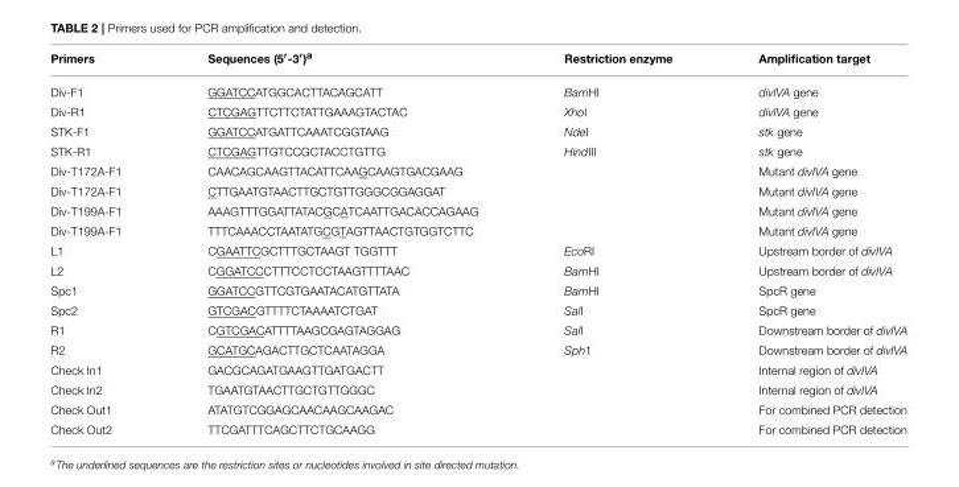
<table><thead><tr><td>Primers</td><td>Sequences (5′-3′)<sup>a</sup></td><td>Restriction enzyme</td><td>Amplification target</td></tr></thead><tbody><tr><td>Div-F1</td><td>GGATCCATGGCACTTACAGCATT</td><td>BamHI</td><td>divIVA gene</td></tr><tr><td>Div-R1</td><td>CTCGAGTTCTTCTATTGAAAGTACTAC</td><td>XhoI</td><td>divIVA gene</td></tr><tr><td>STK-F1</td><td>GGATCCATGATTCAAATCGGTAAG</td><td>NdeI</td><td>stk gene</td></tr><tr><td>STK-R1</td><td>CTCGAGTTGTCCGCTACCTGTTG</td><td>HindIII</td><td>stk gene</td></tr><tr><td>Div-T172A-F1</td><td>CAACAGCAAGTTACATTCAAGCAAGTGACGAAG</td><td></td><td>Mutant divIVA gene</td></tr><tr><td>Div-T172A-F1</td><td>CTTGAATGTAACTTGCTGTTGGGCGGAGGAT</td><td></td><td>Mutant divIVA gene</td></tr><tr><td>Div-T199A-F1</td><td>AAAGTTTGGATTATACGCATCAATTGACACCAGAAG</td><td></td><td>Mutant divIVA gene</td></tr><tr><td>Div-T199A-F1</td><td>TTTCAAACCTAATATGCGTAGTTAACTGTGGTCTTC</td><td></td><td>Mutant divIVA gene</td></tr><tr><td>L1</td><td>CGAATTCGCTTTGCTAAGT TGGTTT</td><td>EcoRI</td><td>Upstream border of divIVA</td></tr><tr><td>L2</td><td>CGGATCCCTTTCCTCCTAAGTTTTAAC</td><td>BamHI</td><td>Upstream border of divIVA</td></tr><tr><td>Spc1</td><td>GGATCCGTTCGTGAATACATGTTATA</td><td>BamHI</td><td>SpcR gene</td></tr><tr><td>Spc2</td><td>GTCGACGTTTTCTAAAATCTGAT</td><td>SalI</td><td>SpcR gene</td></tr><tr><td>R1</td><td>CGTCGACATTTTAAGCGAGTAGGAG</td><td>SalI</td><td>Downstream border of divIVA</td></tr><tr><td>R2</td><td>GCATGCAGACTTGCTCAATAGGA</td><td>Sph1</td><td>Downstream border of divIVA</td></tr><tr><td>Check In1</td><td>GACGCAGATGAAGTTGATGACTT</td><td></td><td>Internal region of divIVA</td></tr><tr><td>Check In2</td><td>TGAATGTAACTTGCTGTTGGGC</td><td></td><td>Internal region of divIVA</td></tr><tr><td>Check Out1</td><td>ATATGTCGGAGCAACAAGCAAGAC</td><td></td><td>For combined PCR detection</td></tr><tr><td>Check Out2</td><td>TTCGATTTCAGCTTCTGCAAGG</td><td></td><td>For combined PCR detection</td></tr></tbody></table>